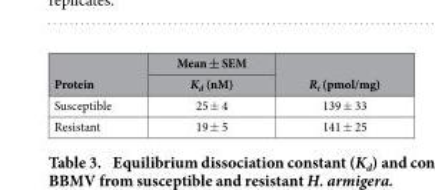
<table><thead><tr><td rowspan="2">Protein</td><td rowspan="2">Mean ± SEM K<sub>d</sub> (nM)</td><td rowspan="2">R<sub>t</sub> (pmol/mg)</td></tr><tr></tr></thead><tbody><tr><td>Susceptible</td><td>25 ± 4</td><td>139 ± 33</td></tr><tr><td>Resistant</td><td>19 ± 5</td><td>141 ± 25</td></tr></tbody></table>